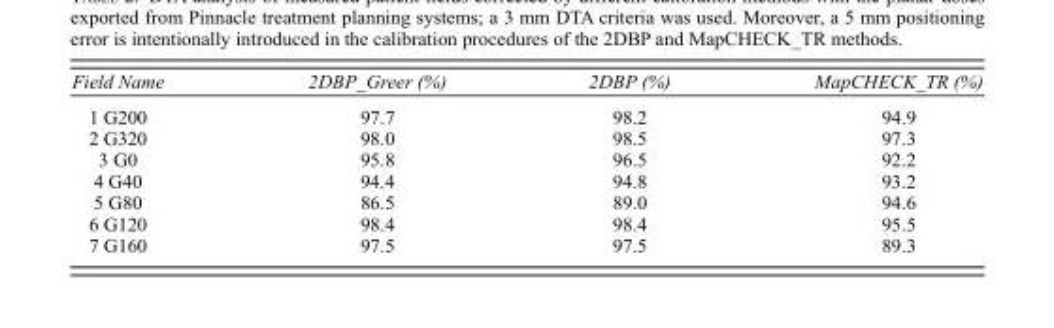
<table><thead><tr><td>Field Name</td><td>2DBP_Greer (%)</td><td>2DBP (%)</td><td>MapCHECK_TR (%)</td></tr></thead><tbody><tr><td>1 G200</td><td>97.7</td><td>98.2</td><td>94.9</td></tr><tr><td>2 G320</td><td>98.0</td><td>98.5</td><td>97.3</td></tr><tr><td>3 G0</td><td>95.8</td><td>96.5</td><td>92.2</td></tr><tr><td>4 G40</td><td>94.4</td><td>94.8</td><td>93.2</td></tr><tr><td>5 G80</td><td>86.5</td><td>89.0</td><td>94.6</td></tr><tr><td>6 G120</td><td>98.4</td><td>98.4</td><td>95.5</td></tr><tr><td>7 G160</td><td>97.5</td><td>97.5</td><td>89.3</td></tr></tbody></table>